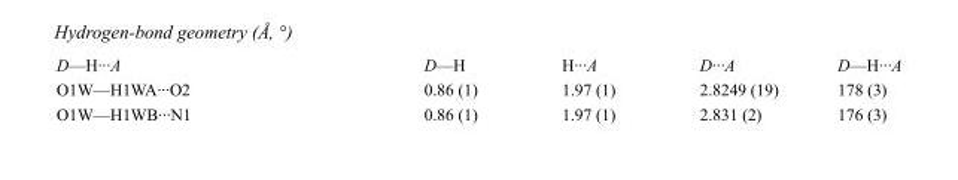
<table><tbody><tr><td>D—H···A</td><td>D—H</td><td>H···A</td><td>D···A</td><td>D—H···A</td></tr><tr><td>O1W—H1WA···O2</td><td>0.86 (1)</td><td>1.97 (1)</td><td>2.8249 (19)</td><td>178 (3)</td></tr><tr><td>O1W—H1WB···N1</td><td>0.86 (1)</td><td>1.97 (1)</td><td>2.831 (2)</td><td>176 (3)</td></tr></tbody></table>